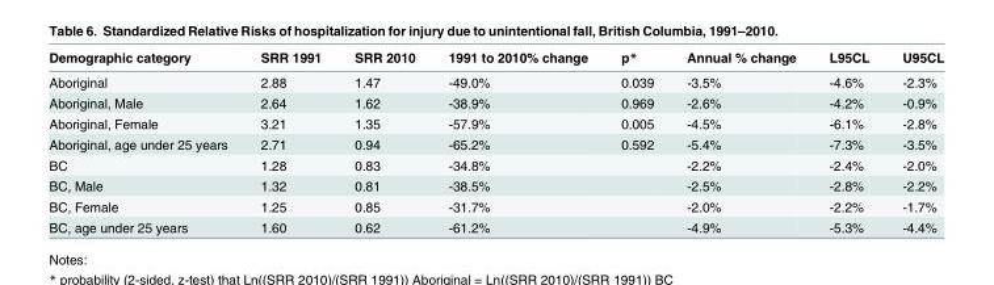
<table><thead><tr><td>Demographic category</td><td>SRR 1991</td><td>SRR 2010</td><td>1991 to 2010% change</td><td>p*</td><td>Annual % change</td><td>L95CL</td><td>U95CL</td></tr></thead><tbody><tr><td>Aboriginal</td><td>2.88</td><td>1.47</td><td>-49.0%</td><td>0.039</td><td>-3.5%</td><td>-4.6%</td><td>-2.3%</td></tr><tr><td>Aboriginal, Male</td><td>2.64</td><td>1.62</td><td>-38.9%</td><td>0.969</td><td>-2.6%</td><td>-4.2%</td><td>-0.9%</td></tr><tr><td>Aboriginal, Female</td><td>3.21</td><td>1.35</td><td>-57.9%</td><td>0.005</td><td>-4.5%</td><td>-6.1%</td><td>-2.8%</td></tr><tr><td>Aboriginal, age under 25 years</td><td>2.71</td><td>0.94</td><td>-65.2%</td><td>0.592</td><td>-5.4%</td><td>-7.3%</td><td>-3.5%</td></tr><tr><td>BC</td><td>1.28</td><td>0.83</td><td>-34.8%</td><td></td><td>-2.2%</td><td>-2.4%</td><td>-2.0%</td></tr><tr><td>BC, Male</td><td>1.32</td><td>0.81</td><td>-38.5%</td><td></td><td>-2.5%</td><td>-2.8%</td><td>-2.2%</td></tr><tr><td>BC, Female</td><td>1.25</td><td>0.85</td><td>-31.7%</td><td></td><td>-2.0%</td><td>-2.2%</td><td>-1.7%</td></tr><tr><td>BC, age under 25 years</td><td>1.60</td><td>0.62</td><td>-61.2%</td><td></td><td>-4.9%</td><td>-5.3%</td><td>-4.4%</td></tr></tbody></table>